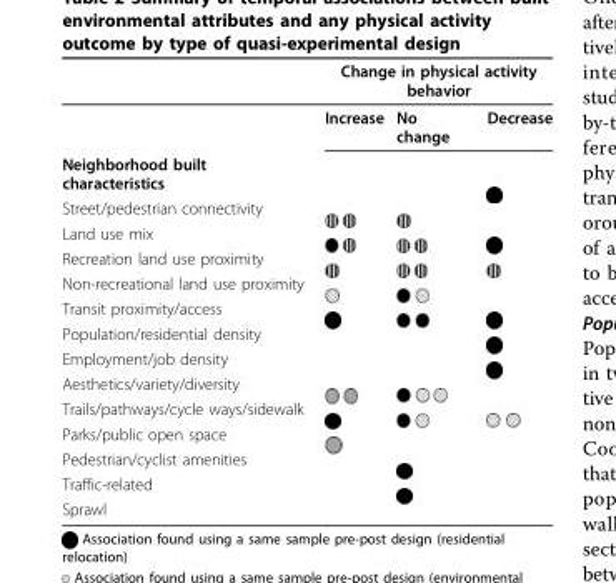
<table><thead><tr><td rowspan="2"></td><td colspan="3">Change in physical activity behavior</td></tr><tr><td>Increase</td><td>No change</td><td>Decrease</td></tr></thead><tbody><tr><td colspan="4">Neighborhood built characteristics</td></tr><tr><td colspan="4">Street/pedestrian connectivity</td></tr><tr><td colspan="4">Land use mix</td></tr><tr><td colspan="4">Recreation land use proximity</td></tr><tr><td colspan="4">Non-recreational land use proximity</td></tr><tr><td colspan="4">Transit proximity/access</td></tr><tr><td colspan="4">Population/residential density</td></tr><tr><td colspan="4">Employment/job density</td></tr><tr><td colspan="4">Aesthetics/variety/diversity</td></tr><tr><td colspan="4">Trails/pathways/cycle ways/sidewalk</td></tr><tr><td colspan="4">Parks/public open space</td></tr><tr><td colspan="4">Pedestrian/cyclist amenities</td></tr><tr><td colspan="4">Traffic-related</td></tr><tr><td>Sprawl</td><td></td><td></td><td></td></tr></tbody></table>